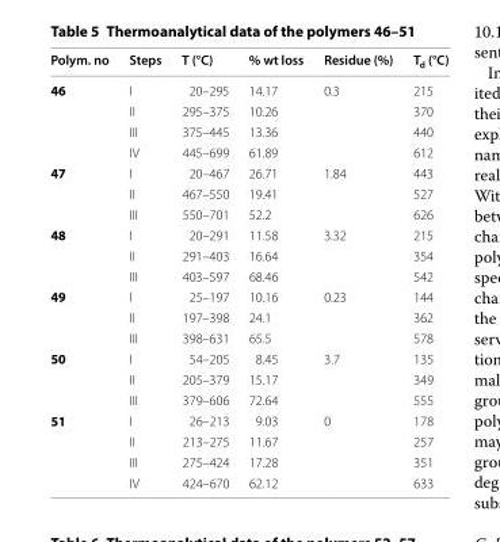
<table><thead><tr><td>Polym. no</td><td>Steps</td><td>T (°C)</td><td>% wt loss</td><td>Residue (%)</td><td>T<sub>d</sub> (°C)</td></tr></thead><tbody><tr><td rowspan="4">46</td><td>I</td><td>20–295</td><td>14.17</td><td>0.3</td><td>215</td></tr><tr><td>II</td><td>295–375</td><td>10.26</td><td></td><td>370</td></tr><tr><td>III</td><td>375–445</td><td>13.36</td><td></td><td>440</td></tr><tr><td>IV</td><td>445–699</td><td>61.89</td><td></td><td>612</td></tr><tr><td rowspan="3">47</td><td>I</td><td>20–467</td><td>26.71</td><td>1.84</td><td>443</td></tr><tr><td>II</td><td>467–550</td><td>19.41</td><td></td><td>527</td></tr><tr><td>III</td><td>550–701</td><td>52.2</td><td></td><td>626</td></tr><tr><td rowspan="3">48</td><td>I</td><td>20–291</td><td>11.58</td><td>3.32</td><td>215</td></tr><tr><td>II</td><td>291–403</td><td>16.64</td><td></td><td>354</td></tr><tr><td>III</td><td>403–597</td><td>68.46</td><td></td><td>542</td></tr><tr><td rowspan="3">49</td><td>I</td><td>25–197</td><td>10.16</td><td>0.23</td><td>144</td></tr><tr><td>II</td><td>197–398</td><td>24.1</td><td></td><td>362</td></tr><tr><td>III</td><td>398–631</td><td>65.5</td><td></td><td>578</td></tr><tr><td rowspan="3">50</td><td>I</td><td>54–205</td><td>8.45</td><td>3.7</td><td>135</td></tr><tr><td>II</td><td>205–379</td><td>15.17</td><td></td><td>349</td></tr><tr><td>III</td><td>379–606</td><td>72.64</td><td></td><td>555</td></tr><tr><td rowspan="4">51</td><td>I</td><td>26–213</td><td>9.03</td><td>0</td><td>178</td></tr><tr><td>II</td><td>213–275</td><td>11.67</td><td></td><td>257</td></tr><tr><td>III</td><td>275–424</td><td>17.28</td><td></td><td>351</td></tr><tr><td>IV</td><td>424–670</td><td>62.12</td><td></td><td>633</td></tr></tbody></table>